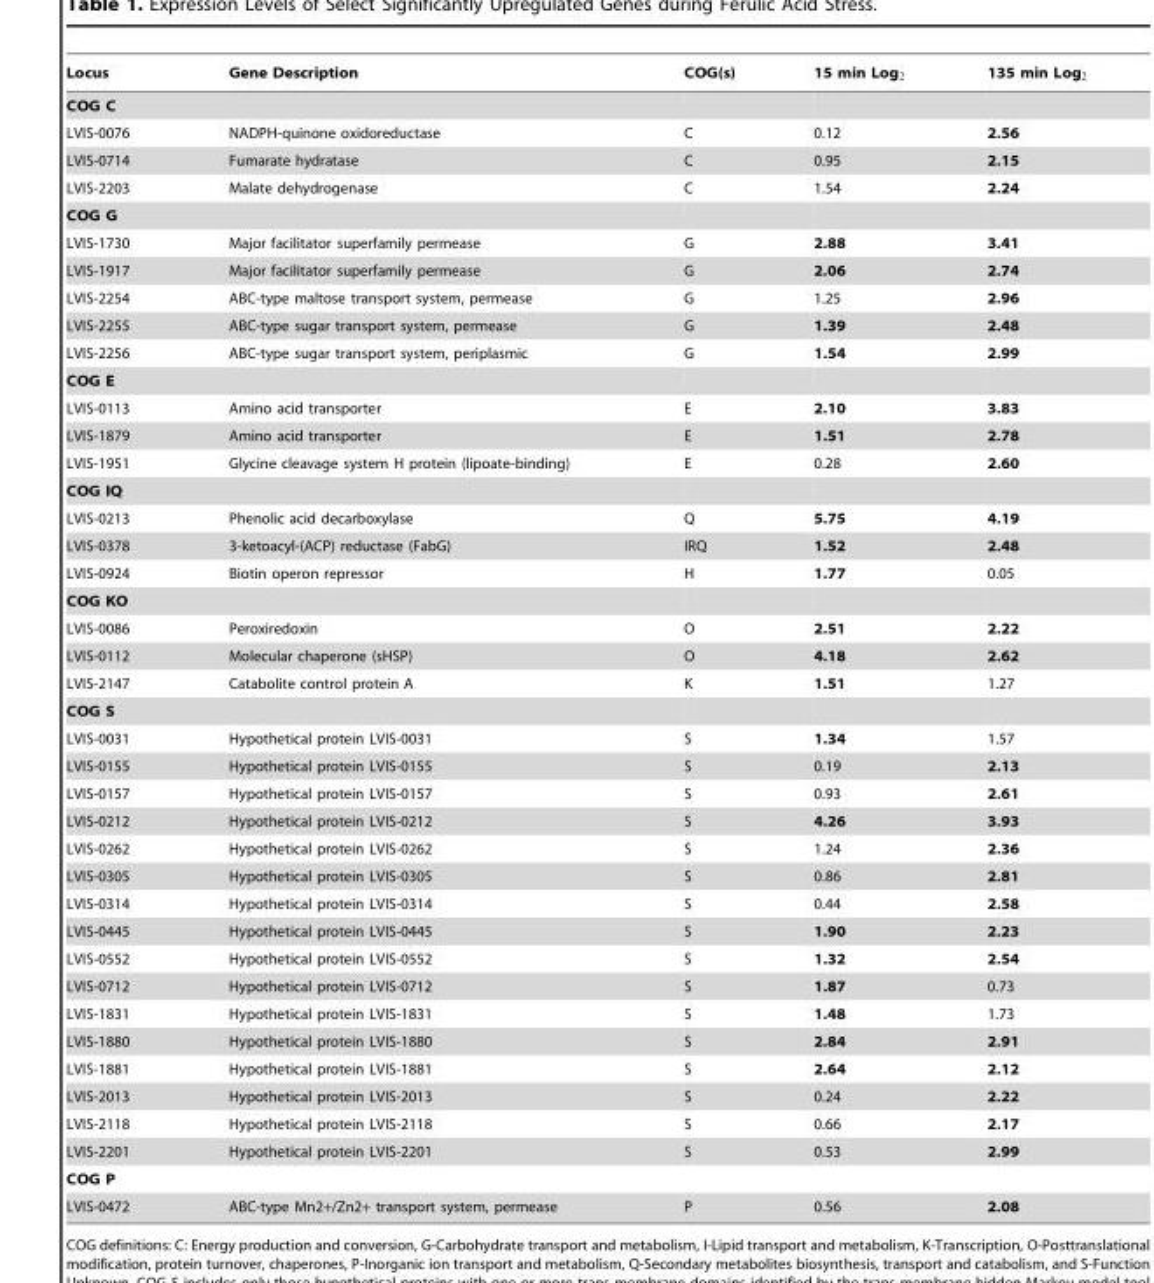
<table><thead><tr><td>Locus</td><td>Gene Description</td><td>COG(s)</td><td>15 min Log2</td><td>135 min Log2</td></tr></thead><tbody><tr><td colspan="5">COG C</td></tr><tr><td>LVIS-0076</td><td>NADPH-quinone oxidoreductase</td><td>C</td><td>0.12</td><td>2.56</td></tr><tr><td>LVIS-0714</td><td>Fumarate hydratase</td><td>C</td><td>0.95</td><td>2.15</td></tr><tr><td>LVIS-2203</td><td>Malate dehydrogenase</td><td>C</td><td>1.54</td><td>2.24</td></tr><tr><td colspan="5">COG G</td></tr><tr><td>LVIS-1730</td><td>Major facilitator superfamily permease</td><td>G</td><td>2.88</td><td>3.41</td></tr><tr><td>LVIS-1917</td><td>Major facilitator superfamily permease</td><td>G</td><td>2.06</td><td>2.74</td></tr><tr><td>LVIS-2254</td><td>ABC-type maltose transport system, permease</td><td>G</td><td>1.25</td><td>2.96</td></tr><tr><td>LVIS-2255</td><td>ABC-type sugar transport system, permease</td><td>G</td><td>1.39</td><td>2.48</td></tr><tr><td>LVIS-2256</td><td>ABC-type sugar transport system, periplasmic</td><td>G</td><td>1.54</td><td>2.99</td></tr><tr><td colspan="5">COG E</td></tr><tr><td>LVIS-0113</td><td>Amino acid transporter</td><td>E</td><td>2.10</td><td>3.83</td></tr><tr><td>LVIS-1879</td><td>Amino acid transporter</td><td>E</td><td>1.51</td><td>2.78</td></tr><tr><td>LVIS-1951</td><td>Glycine cleavage system H protein (lipoate-binding)</td><td>E</td><td>0.28</td><td>2.60</td></tr><tr><td colspan="5">COG IQ</td></tr><tr><td>LVIS-0213</td><td>Phenolic acid decarboxylase</td><td>Q</td><td>5.75</td><td>4.19</td></tr><tr><td>LVIS-0378</td><td>3-ketoacyl-(ACP) reductase (FabG)</td><td>IRQ</td><td>1.52</td><td>2.48</td></tr><tr><td>LVIS-0924</td><td>Biotin operon repressor</td><td>H</td><td>1.77</td><td>0.05</td></tr><tr><td colspan="5">COG KO</td></tr><tr><td>LVIS-0086</td><td>Peroxiredoxin</td><td>O</td><td>2.51</td><td>2.22</td></tr><tr><td>LVIS-0112</td><td>Molecular chaperone (sHSP)</td><td>O</td><td>4.18</td><td>2.62</td></tr><tr><td>LVIS-2147</td><td>Catabolite control protein A</td><td>K</td><td>1.51</td><td>1.27</td></tr><tr><td colspan="5">COG S</td></tr><tr><td>LVIS-0031</td><td>Hypothetical protein LVIS-0031</td><td>S</td><td>1.34</td><td>1.57</td></tr><tr><td>LVIS-0155</td><td>Hypothetical protein LVIS-0155</td><td>S</td><td>0.19</td><td>2.13</td></tr><tr><td>LVIS-0157</td><td>Hypothetical protein LVIS-0157</td><td>S</td><td>0.93</td><td>2.61</td></tr><tr><td>LVIS-0212</td><td>Hypothetical protein LVIS-0212</td><td>S</td><td>4.26</td><td>3.93</td></tr><tr><td>LVIS-0262</td><td>Hypothetical protein LVIS-0262</td><td>S</td><td>1.24</td><td>2.36</td></tr><tr><td>LVIS-0305</td><td>Hypothetical protein LVIS-0305</td><td>S</td><td>0.86</td><td>2.81</td></tr><tr><td>LVIS-0314</td><td>Hypothetical protein LVIS-0314</td><td>S</td><td>0.44</td><td>2.58</td></tr><tr><td>LVIS-0445</td><td>Hypothetical protein LVIS-0445</td><td>S</td><td>1.90</td><td>2.23</td></tr><tr><td>LVIS-0552</td><td>Hypothetical protein LVIS-0552</td><td>S</td><td>1.32</td><td>2.54</td></tr><tr><td>LVIS-0712</td><td>Hypothetical protein LVIS-0712</td><td>S</td><td>1.87</td><td>0.73</td></tr><tr><td>LVIS-1831</td><td>Hypothetical protein LVIS-1831</td><td>S</td><td>1.48</td><td>1.73</td></tr><tr><td>LVIS-1880</td><td>Hypothetical protein LVIS-1880</td><td>S</td><td>2.84</td><td>2.91</td></tr><tr><td>LVIS-1881</td><td>Hypothetical protein LVIS-1881</td><td>S</td><td>2.64</td><td>2.12</td></tr><tr><td>LVIS-2013</td><td>Hypothetical protein LVIS-2013</td><td>S</td><td>0.24</td><td>2.22</td></tr><tr><td>LVIS-2118</td><td>Hypothetical protein LVIS-2118</td><td>S</td><td>0.66</td><td>2.17</td></tr><tr><td>LVIS-2201</td><td>Hypothetical protein LVIS-2201</td><td>S</td><td>0.53</td><td>2.99</td></tr><tr><td colspan="5">COG P</td></tr><tr><td>LVIS-0472</td><td>ABC-type Mn2+/Zn2+ transport system, permease</td><td>P</td><td>0.56</td><td>2.08</td></tr></tbody></table>